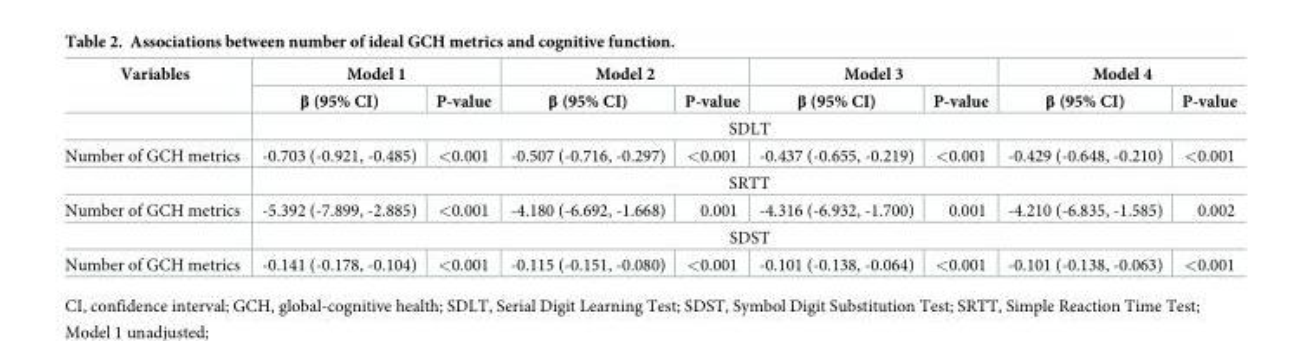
<table><thead><tr><td rowspan="2">Variables</td><td colspan="2">Model 1</td><td colspan="2">Model 2</td><td colspan="2">Model 3</td><td colspan="2">Model 4</td></tr><tr><td>β (95% CI)</td><td>P-value</td><td>β (95% CI)</td><td>P-value</td><td>β (95% CI)</td><td>P-value</td><td>β (95% CI)</td><td>P-value</td></tr></thead><tbody><tr><td></td><td colspan="8">SDLT</td></tr><tr><td rowspan="2">Number of GCH metrics</td><td>-0.703 (-0.921, -0.485)</td><td>&lt;0.001</td><td>-0.507 (-0.716, -0.297)</td><td>&lt;0.001</td><td>-0.437 (-0.655, -0.219)</td><td>&lt;0.001</td><td>-0.429 (-0.648, -0.210)</td><td>&lt;0.001</td></tr><tr><td colspan="8">SRTT</td></tr><tr><td rowspan="2">Number of GCH metrics</td><td>-5.392 (-7.899, -2.885)</td><td>&lt;0.001</td><td>-4.180 (-6.692, -1.668)</td><td>0.001</td><td>-4.316 (-6.932, -1.700)</td><td>0.001</td><td>-4.210 (-6.835, -1.585)</td><td>0.002</td></tr><tr><td colspan="8">SDST</td></tr><tr><td>Number of GCH metrics</td><td>-0.141 (-0.178, -0.104)</td><td>&lt;0.001</td><td>-0.115 (-0.151, -0.080)</td><td>&lt;0.001</td><td>-0.101 (-0.138, -0.064)</td><td>&lt;0.001</td><td>-0.101 (-0.138, -0.063)</td><td>&lt;0.001</td></tr></tbody></table>